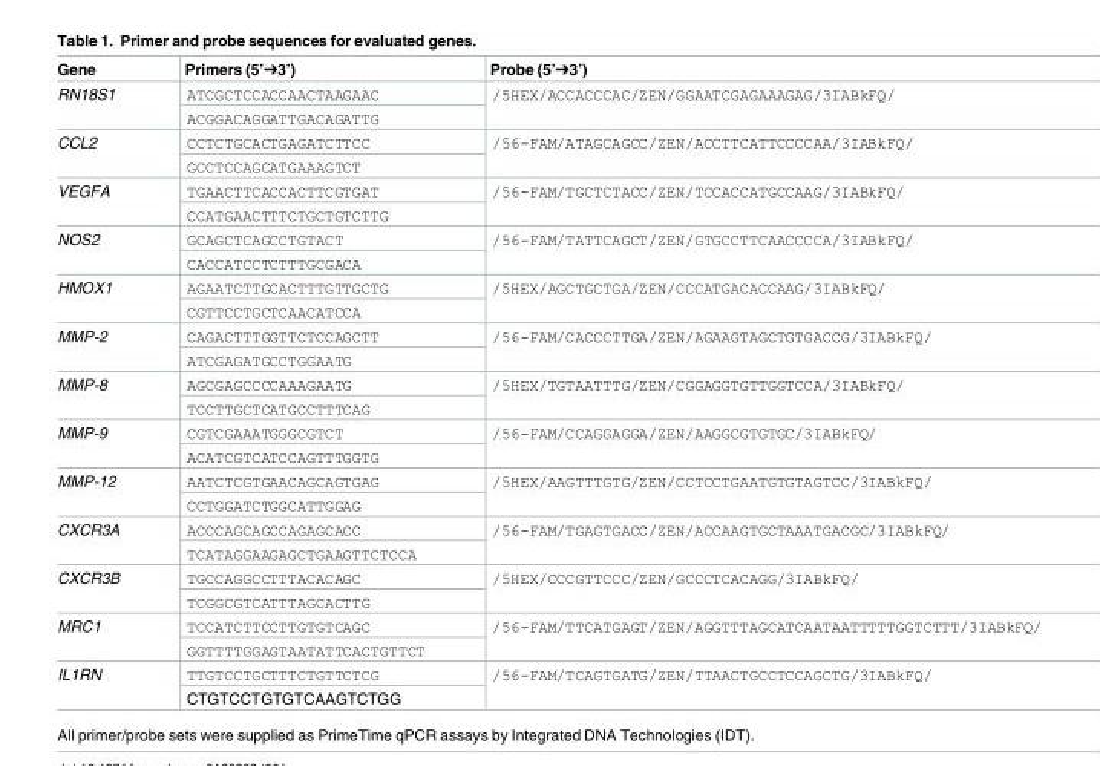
<table><thead><tr><td>Gene</td><td>Primers (5’➔3’)</td><td>Probe (5’➔3’)</td></tr></thead><tbody><tr><td rowspan="2">RN18S1</td><td>ATCGCTCCACCAACTAAGAAC</td><td rowspan="2">/5HEX/ACCACCCAC/ZEN/GGAATCGAGAAAGAG/3IABkFQ/</td></tr><tr><td>ACGGACAGGATTGACAGATTG</td></tr><tr><td rowspan="2">CCL2</td><td>CCTCTGCACTGAGATCTTCC</td><td rowspan="2">/56-FAM/ATAGCAGCC/ZEN/ACCTTCATTCCCCAA/3IABkFQ/</td></tr><tr><td>GCCTCCAGCATGAAAGTCT</td></tr><tr><td rowspan="2">VEGFA</td><td>TGAACTTCACCACTTCGTGAT</td><td rowspan="2">/56-FAM/TGCTCTACC/ZEN/TCCACCATGCCAAG/3IABkFQ/</td></tr><tr><td>CCATGAACTTTCTGCTGTCTTG</td></tr><tr><td rowspan="2">NOS2</td><td>GCAGCTCAGCCTGTACT</td><td rowspan="2">/56-FAM/TATTCAGCT/ZEN/GTGCCTTCAACCCCA/3IABkFQ/</td></tr><tr><td>CACCATCCTCTTTGCGACA</td></tr><tr><td rowspan="2">HMOX1</td><td>AGAATCTTGCACTTTGTTGCTG</td><td rowspan="2">/5HEX/AGCTGCTGA/ZEN/CCCATGACACCAAG/3IABkFQ/</td></tr><tr><td>CGTTCCTGCTCAACATCCA</td></tr><tr><td rowspan="2">MMP-2</td><td>CAGACTTTGGTTCTCCAGCTT</td><td rowspan="2">/56-FAM/CACCCTTGA/ZEN/AGAAGTAGCTGTGACCG/3IABkFQ/</td></tr><tr><td>ATCGAGATGCCTGGAATG</td></tr><tr><td rowspan="2">MMP-8</td><td>AGCGAGCCCCAAAGAATG</td><td rowspan="2">/5HEX/TGTAATTTG/ZEN/CGGAGGTGTTGGTCCA/3IABkFQ/</td></tr><tr><td>TCCTTGCTCATGCCTTTCAG</td></tr><tr><td rowspan="2">MMP-9</td><td>CGTCGAAATGGGCGTCT</td><td rowspan="2">/56-FAM/CCAGGAGGA/ZEN/AAGGCGTGTGC/3IABkFQ/</td></tr><tr><td>ACATCGTCATCCAGTTTGGTG</td></tr><tr><td rowspan="2">MMP-12</td><td>AATCTCGTGAACAGCAGTGAG</td><td rowspan="2">/5HEX/AAGTTTGTG/ZEN/CCTCCTGAATGTGTAGTCC/3IABkFQ/</td></tr><tr><td>CCTGGATCTGGCATTGGAG</td></tr><tr><td rowspan="2">CXCR3A</td><td>ACCCAGCAGCCAGAGCACC</td><td rowspan="2">/56-FAM/TGAGTGACC/ZEN/ACCAAGTGCTAAATGACGC/3IABkFQ/</td></tr><tr><td>TCATAGGAAGAGCTGAAGTTCTCCA</td></tr><tr><td rowspan="2">CXCR3B</td><td>TGCCAGGCCTTTACACAGC</td><td rowspan="2">/5HEX/CCCGTTCCC/ZEN/GCCCTCACAGG/3IABkFQ/</td></tr><tr><td>TCGGCGTCATTTAGCACTTG</td></tr><tr><td rowspan="2">MRC1</td><td>TCCATCTTCCTTGTGTCAGC</td><td rowspan="2">/56-FAM/TTCATGAGT/ZEN/AGGTTTAGCATCAATAATTTTTGGTCTTT/3IABkFQ/</td></tr><tr><td>GGTTTTGGAGTAATATTCACTGTTCT</td></tr><tr><td rowspan="2">IL1RN</td><td>TTGTCCTGCTTTCTGTTCTCG</td><td rowspan="2">/56-FAM/TCAGTGATG/ZEN/TTAACTGCCTCCAGCTG/3IABkFQ/</td></tr><tr><td>CTGTCCTGTGTCAAGTCTGG</td></tr></tbody></table>